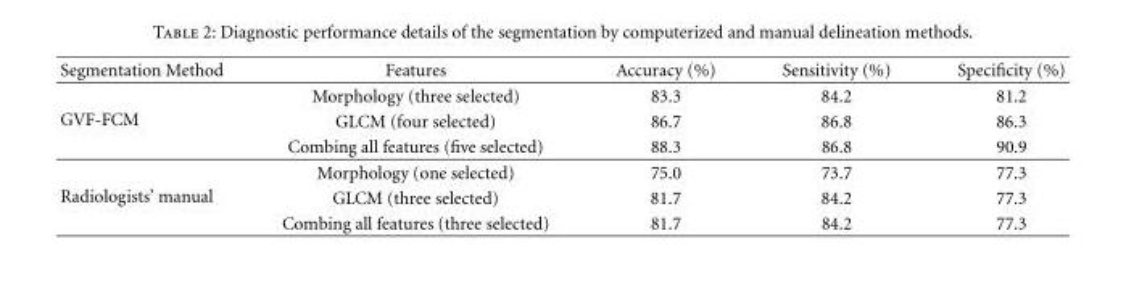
<table><thead><tr><td>Segmentation Method</td><td>Features</td><td>Accuracy (%)</td><td>Sensitivity (%)</td><td>Specificity (%)</td></tr></thead><tbody><tr><td rowspan="3">GVF-FCM</td><td>Morphology (three selected)</td><td>83.3</td><td>84.2</td><td>81.2</td></tr><tr><td>GLCM (four selected)</td><td>86.7</td><td>86.8</td><td>86.3</td></tr><tr><td>Combing all features (five selected)</td><td>88.3</td><td>86.8</td><td>90.9</td></tr><tr><td rowspan="3">Radiologists’ manual</td><td>Morphology (one selected)</td><td>75.0</td><td>73.7</td><td>77.3</td></tr><tr><td>GLCM (three selected)</td><td>81.7</td><td>84.2</td><td>77.3</td></tr><tr><td>Combing all features (three selected)</td><td>81.7</td><td>84.2</td><td>77.3</td></tr></tbody></table>